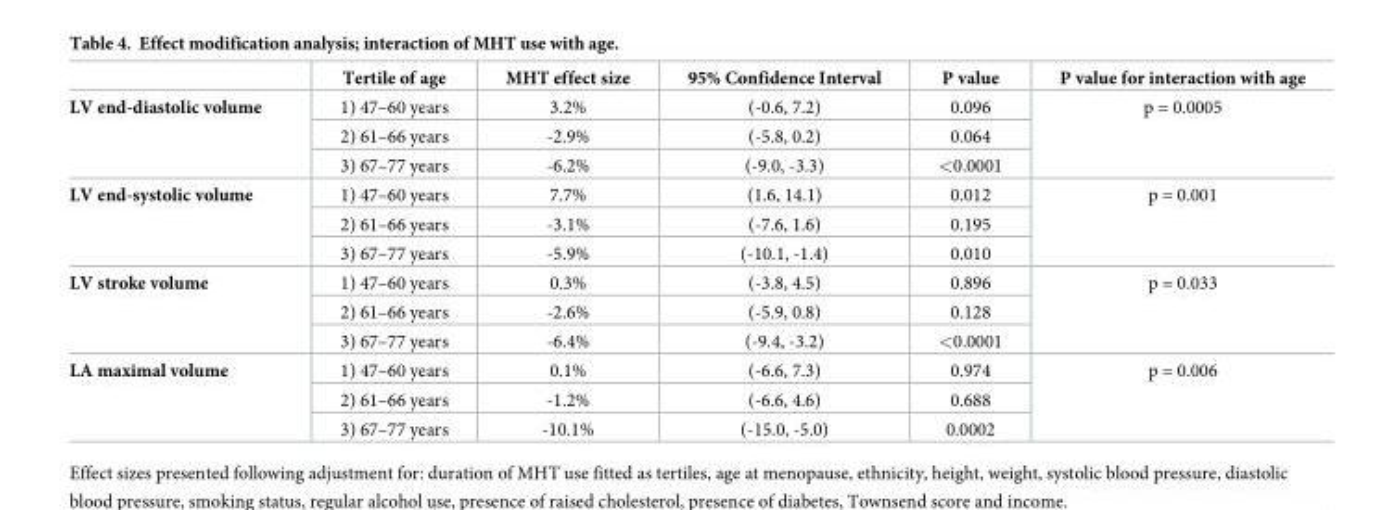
<table><thead><tr><td></td><td>Tertile of age</td><td>MHT effect size</td><td>95% Confidence Interval</td><td>P value</td><td>P value for interaction with age</td></tr></thead><tbody><tr><td rowspan="3">LV end-diastolic volume</td><td>1) 47–60 years</td><td>3.2%</td><td>(-0.6, 7.2)</td><td>0.096</td><td rowspan="3">p = 0.0005</td></tr><tr><td>2) 61–66 years</td><td>-2.9%</td><td>(-5.8, 0.2)</td><td>0.064</td></tr><tr><td>3) 67–77 years</td><td>-6.2%</td><td>(-9.0, -3.3)</td><td>&lt;0.0001</td></tr><tr><td rowspan="3">LV end-systolic volume</td><td>1) 47–60 years</td><td>7.7%</td><td>(1.6, 14.1)</td><td>0.012</td><td rowspan="3">p = 0.001</td></tr><tr><td>2) 61–66 years</td><td>-3.1%</td><td>(-7.6, 1.6)</td><td>0.195</td></tr><tr><td>3) 67–77 years</td><td>-5.9%</td><td>(-10.1, -1.4)</td><td>0.010</td></tr><tr><td rowspan="3">LV stroke volume</td><td>1) 47–60 years</td><td>0.3%</td><td>(-3.8, 4.5)</td><td>0.896</td><td rowspan="3">p = 0.033</td></tr><tr><td>2) 61–66 years</td><td>-2.6%</td><td>(-5.9, 0.8)</td><td>0.128</td></tr><tr><td>3) 67–77 years</td><td>-6.4%</td><td>(-9.4, -3.2)</td><td>&lt;0.0001</td></tr><tr><td rowspan="3">LA maximal volume</td><td>1) 47–60 years</td><td>0.1%</td><td>(-6.6, 7.3)</td><td>0.974</td><td rowspan="3">p = 0.006</td></tr><tr><td>2) 61–66 years</td><td>-1.2%</td><td>(-6.6, 4.6)</td><td>0.688</td></tr><tr><td>3) 67–77 years</td><td>-10.1%</td><td>(-15.0, -5.0)</td><td>0.0002</td></tr></tbody></table>